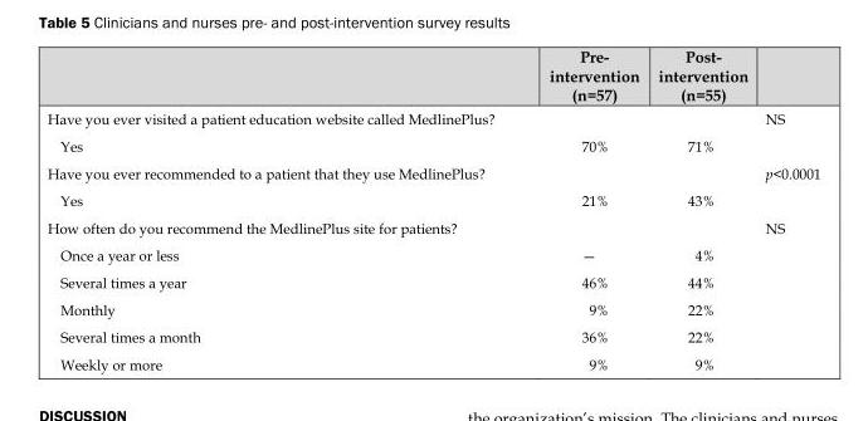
<table><thead><tr><td></td><td>Pre- intervention (n=57)</td><td>Post- intervention (n=55)</td><td></td></tr></thead><tbody><tr><td>Have you ever visited a patient education website called MedlinePlus?</td><td></td><td></td><td>NS</td></tr><tr><td>Yes</td><td>70%</td><td>71%</td><td></td></tr><tr><td>Have you ever recommended to a patient that they use MedlinePlus?</td><td></td><td></td><td>p&lt;0.0001</td></tr><tr><td>Yes</td><td>21%</td><td>43%</td><td></td></tr><tr><td>How often do you recommend the MedlinePlus site for patients?</td><td></td><td></td><td>NS</td></tr><tr><td>Once a year or less</td><td>—</td><td>4%</td><td></td></tr><tr><td>Several times a year</td><td>46%</td><td>44%</td><td></td></tr><tr><td>Monthly</td><td>9%</td><td>22%</td><td></td></tr><tr><td>Several times a month</td><td>36%</td><td>22%</td><td></td></tr><tr><td>Weekly or more</td><td>9%</td><td>9%</td><td></td></tr></tbody></table>